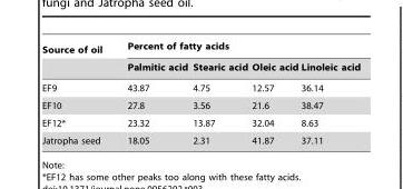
<table><thead><tr><td rowspan="2">Source of oil</td><td colspan="4">Percent of fatty acids</td></tr><tr><td>Palmitic acid</td><td>Stearic acid</td><td>Oleic acid</td><td>Linoleic acid</td></tr></thead><tbody><tr><td>EF9</td><td>43.87</td><td>4.75</td><td>12.57</td><td>36.14</td></tr><tr><td>EF10</td><td>27.8</td><td>3.56</td><td>21.6</td><td>38.47</td></tr><tr><td>EF12*</td><td>23.32</td><td>13.87</td><td>32.04</td><td>8.63</td></tr><tr><td>Jatropha seed</td><td>18.05</td><td>2.31</td><td>41.87</td><td>37.11</td></tr></tbody></table>